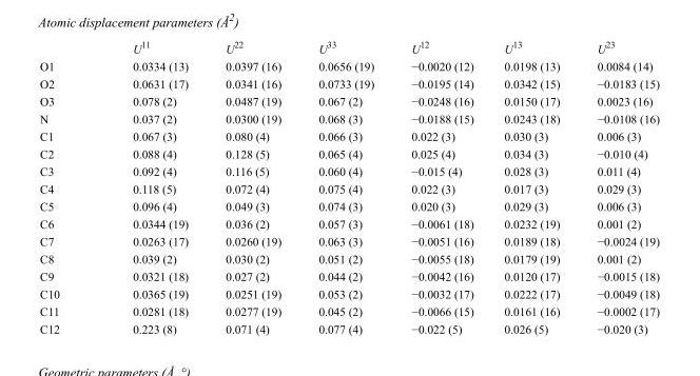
<table><thead><tr><td></td><td>U<sup>11</sup></td><td>U<sup>22</sup></td><td>U<sup>33</sup></td><td>U<sup>12</sup></td><td>U<sup>13</sup></td><td>U<sup>23</sup></td></tr></thead><tbody><tr><td>O1</td><td>0.0334 (13)</td><td>0.0397 (16)</td><td>0.0656 (19)</td><td>−0.0020 (12)</td><td>0.0198 (13)</td><td>0.0084 (14)</td></tr><tr><td>O2</td><td>0.0631 (17)</td><td>0.0341 (16)</td><td>0.0733 (19)</td><td>−0.0195 (14)</td><td>0.0342 (15)</td><td>−0.0183 (15)</td></tr><tr><td>O3</td><td>0.078 (2)</td><td>0.0487 (19)</td><td>0.067 (2)</td><td>−0.0248 (16)</td><td>0.0150 (17)</td><td>0.0023 (16)</td></tr><tr><td>N</td><td>0.037 (2)</td><td>0.0300 (19)</td><td>0.068 (3)</td><td>−0.0188 (15)</td><td>0.0243 (18)</td><td>−0.0108 (16)</td></tr><tr><td>C1</td><td>0.067 (3)</td><td>0.080 (4)</td><td>0.066 (3)</td><td>0.022 (3)</td><td>0.030 (3)</td><td>0.006 (3)</td></tr><tr><td>C2</td><td>0.088 (4)</td><td>0.128 (5)</td><td>0.065 (4)</td><td>0.025 (4)</td><td>0.034 (3)</td><td>−0.010 (4)</td></tr><tr><td>C3</td><td>0.092 (4)</td><td>0.116 (5)</td><td>0.060 (4)</td><td>−0.015 (4)</td><td>0.028 (3)</td><td>0.011 (4)</td></tr><tr><td>C4</td><td>0.118 (5)</td><td>0.072 (4)</td><td>0.075 (4)</td><td>0.022 (3)</td><td>0.017 (3)</td><td>0.029 (3)</td></tr><tr><td>C5</td><td>0.096 (4)</td><td>0.049 (3)</td><td>0.074 (3)</td><td>0.020 (3)</td><td>0.029 (3)</td><td>0.006 (3)</td></tr><tr><td>C6</td><td>0.0344 (19)</td><td>0.036 (2)</td><td>0.057 (3)</td><td>−0.0061 (18)</td><td>0.0232 (19)</td><td>0.001 (2)</td></tr><tr><td>C7</td><td>0.0263 (17)</td><td>0.0260 (19)</td><td>0.063 (3)</td><td>−0.0051 (16)</td><td>0.0189 (18)</td><td>−0.0024 (19)</td></tr><tr><td>C8</td><td>0.039 (2)</td><td>0.030 (2)</td><td>0.051 (2)</td><td>−0.0055 (18)</td><td>0.0179 (19)</td><td>0.001 (2)</td></tr><tr><td>C9</td><td>0.0321 (18)</td><td>0.027 (2)</td><td>0.044 (2)</td><td>−0.0042 (16)</td><td>0.0120 (17)</td><td>−0.0015 (18)</td></tr><tr><td>C10</td><td>0.0365 (19)</td><td>0.0251 (19)</td><td>0.053 (2)</td><td>−0.0032 (17)</td><td>0.0222 (17)</td><td>−0.0049 (18)</td></tr><tr><td>C11</td><td>0.0281 (18)</td><td>0.0277 (19)</td><td>0.045 (2)</td><td>−0.0066 (15)</td><td>0.0161 (16)</td><td>−0.0002 (17)</td></tr><tr><td>C12</td><td>0.223 (8)</td><td>0.071 (4)</td><td>0.077 (4)</td><td>−0.022 (5)</td><td>0.026 (5)</td><td>−0.020 (3)</td></tr></tbody></table>